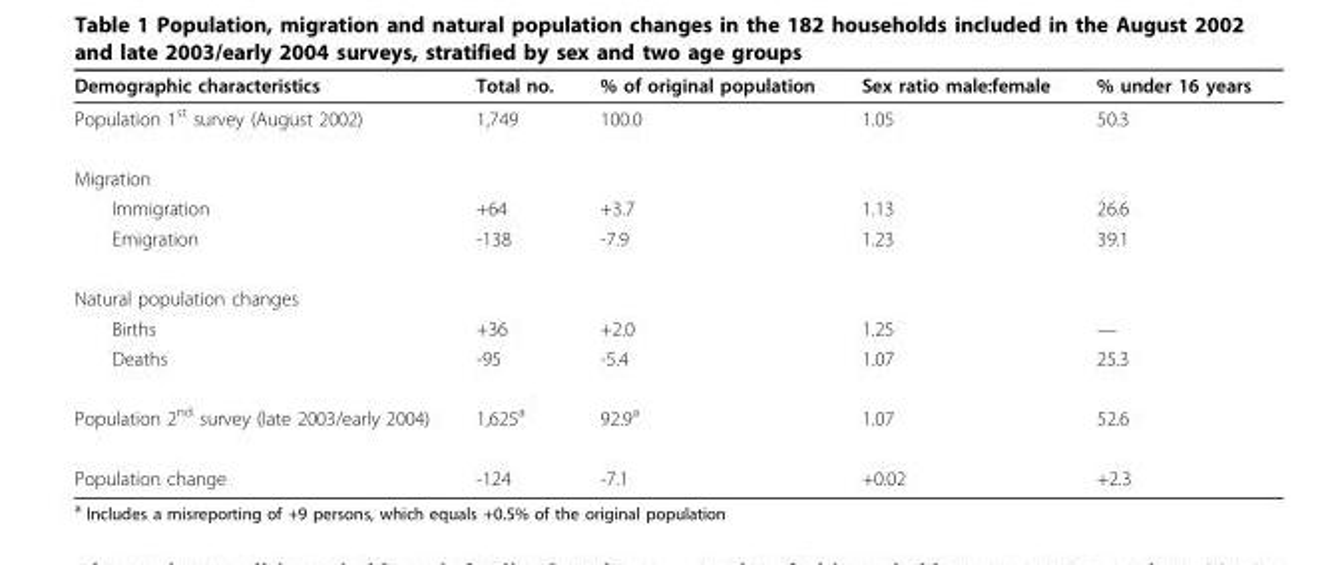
<table><thead><tr><td>Demographic characteristics</td><td>Total no.</td><td>% of original population</td><td>Sex ratio male:female</td><td>% under 16 years</td></tr></thead><tbody><tr><td>Population 1<sup>st</sup> survey (August 2002)</td><td>1,749</td><td>100.0</td><td>1.05</td><td>50.3</td></tr><tr><td colspan="5">Migration</td></tr><tr><td>Immigration</td><td>+64</td><td>+3.7</td><td>1.13</td><td>26.6</td></tr><tr><td>Emigration</td><td>-138</td><td>-7.9</td><td>1.23</td><td>39.1</td></tr><tr><td colspan="5">Natural population changes</td></tr><tr><td>Births</td><td>+36</td><td>+2.0</td><td>1.25</td><td>—</td></tr><tr><td>Deaths</td><td>-95</td><td>-5.4</td><td>1.07</td><td>25.3</td></tr><tr><td>Population 2<sup>nd</sup> survey (late 2003/early 2004)</td><td>1,625<sup>a</sup></td><td>92.9<sup>a</sup></td><td>1.07</td><td>52.6</td></tr><tr><td>Population change</td><td>-124</td><td>-7.1</td><td>+0.02</td><td>+2.3</td></tr></tbody></table>